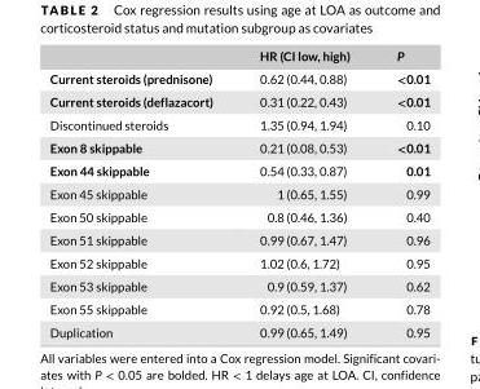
<table><thead><tr><td></td><td>HR (CI low, high)</td><td>P</td></tr></thead><tbody><tr><td>Current steroids (prednisone)</td><td>0.62 (0.44, 0.88)</td><td>&lt;0.01</td></tr><tr><td>Current steroids (deflazacort)</td><td>0.31 (0.22, 0.43)</td><td>&lt;0.01</td></tr><tr><td>Discontinued steroids</td><td>1.35 (0.94, 1.94)</td><td>0.10</td></tr><tr><td>Exon 8 skippable</td><td>0.21 (0.08, 0.53)</td><td>&lt;0.01</td></tr><tr><td>Exon 44 skippable</td><td>0.54 (0.33, 0.87)</td><td>0.01</td></tr><tr><td>Exon 45 skippable</td><td>1 (0.65, 1.55)</td><td>0.99</td></tr><tr><td>Exon 50 skippable</td><td>0.8 (0.46, 1.36)</td><td>0.40</td></tr><tr><td>Exon 51 skippable</td><td>0.99 (0.67, 1.47)</td><td>0.96</td></tr><tr><td>Exon 52 skippable</td><td>1.02 (0.6, 1.72)</td><td>0.95</td></tr><tr><td>Exon 53 skippable</td><td>0.9 (0.59, 1.37)</td><td>0.62</td></tr><tr><td>Exon 55 skippable</td><td>0.92 (0.5, 1.68)</td><td>0.78</td></tr><tr><td>Duplication</td><td>0.99 (0.65, 1.49)</td><td>0.95</td></tr></tbody></table>